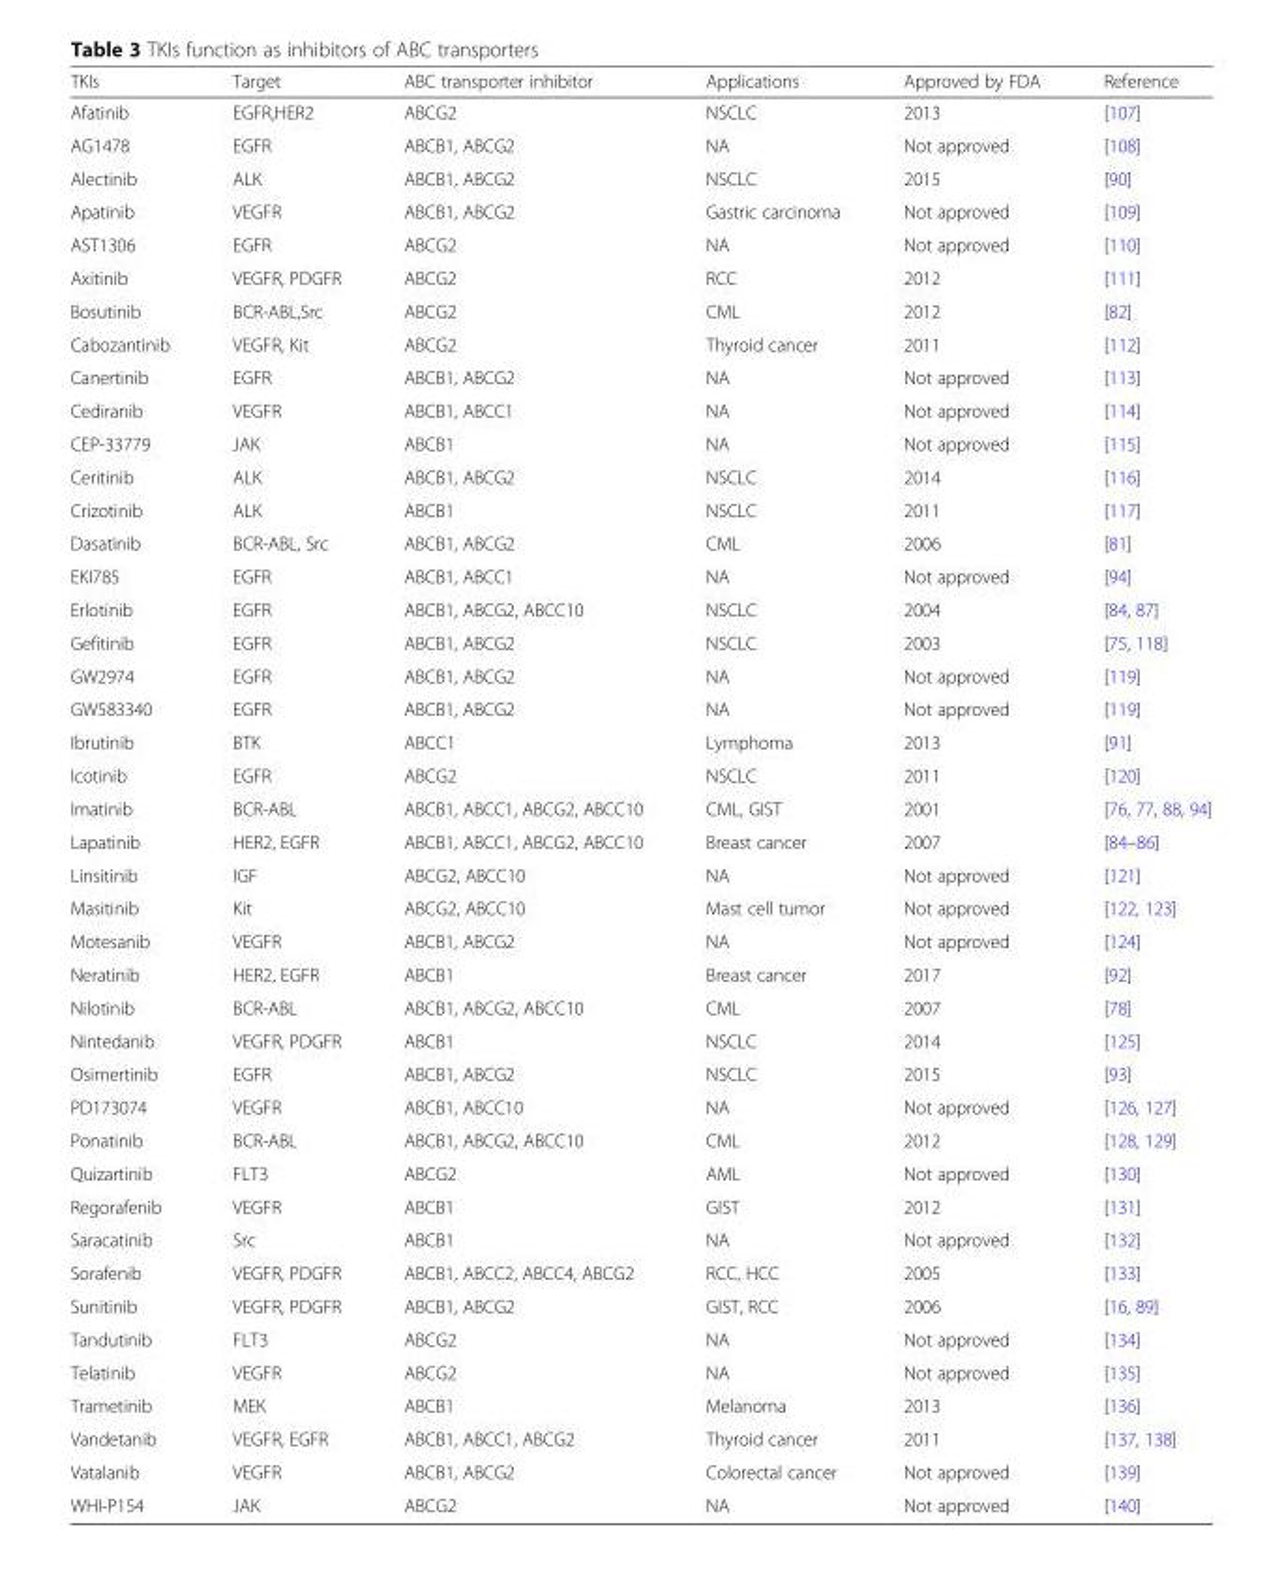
<table><thead><tr><td>TKIs</td><td>Target</td><td>ABC transporter inhibitor</td><td>Applications</td><td>Approved by FDA</td><td>Reference</td></tr></thead><tbody><tr><td>Afatinib</td><td>EGFR,HER2</td><td>ABCG2</td><td>NSCLC</td><td>2013</td><td>[107]</td></tr><tr><td>AG1478</td><td>EGFR</td><td>ABCB1, ABCG2</td><td>NA</td><td>Not approved</td><td>[108]</td></tr><tr><td>Alectinib</td><td>ALK</td><td>ABCB1, ABCG2</td><td>NSCLC</td><td>2015</td><td>[90]</td></tr><tr><td>Apatinib</td><td>VEGFR</td><td>ABCB1, ABCG2</td><td>Gastric carcinoma</td><td>Not approved</td><td>[109]</td></tr><tr><td>AST1306</td><td>EGFR</td><td>ABCG2</td><td>NA</td><td>Not approved</td><td>[110]</td></tr><tr><td>Axitinib</td><td>VEGFR, PDGFR</td><td>ABCG2</td><td>RCC</td><td>2012</td><td>[111]</td></tr><tr><td>Bosutinib</td><td>BCR-ABL,Src</td><td>ABCG2</td><td>CML</td><td>2012</td><td>[82]</td></tr><tr><td>Cabozantinib</td><td>VEGFR, Kit</td><td>ABCG2</td><td>Thyroid cancer</td><td>2011</td><td>[112]</td></tr><tr><td>Canertinib</td><td>EGFR</td><td>ABCB1, ABCG2</td><td>NA</td><td>Not approved</td><td>[113]</td></tr><tr><td>Cediranib</td><td>VEGFR</td><td>ABCB1, ABCC1</td><td>NA</td><td>Not approved</td><td>[114]</td></tr><tr><td>CEP-33779</td><td>JAK</td><td>ABCB1</td><td>NA</td><td>Not approved</td><td>[115]</td></tr><tr><td>Ceritinib</td><td>ALK</td><td>ABCB1, ABCG2</td><td>NSCLC</td><td>2014</td><td>[116]</td></tr><tr><td>Crizotinib</td><td>ALK</td><td>ABCB1</td><td>NSCLC</td><td>2011</td><td>[117]</td></tr><tr><td>Dasatinib</td><td>BCR-ABL, Src</td><td>ABCB1, ABCG2</td><td>CML</td><td>2006</td><td>[81]</td></tr><tr><td>EKI785</td><td>EGFR</td><td>ABCB1, ABCC1</td><td>NA</td><td>Not approved</td><td>[94]</td></tr><tr><td>Erlotinib</td><td>EGFR</td><td>ABCB1, ABCG2, ABCC10</td><td>NSCLC</td><td>2004</td><td>[84, 87]</td></tr><tr><td>Gefitinib</td><td>EGFR</td><td>ABCB1, ABCG2</td><td>NSCLC</td><td>2003</td><td>[75, 118]</td></tr><tr><td>GW2974</td><td>EGFR</td><td>ABCB1, ABCG2</td><td>NA</td><td>Not approved</td><td>[119]</td></tr><tr><td>GW583340</td><td>EGFR</td><td>ABCB1, ABCG2</td><td>NA</td><td>Not approved</td><td>[119]</td></tr><tr><td>Ibrutinib</td><td>BTK</td><td>ABCC1</td><td>Lymphoma</td><td>2013</td><td>[91]</td></tr><tr><td>Icotinib</td><td>EGFR</td><td>ABCG2</td><td>NSCLC</td><td>2011</td><td>[120]</td></tr><tr><td>Imatinib</td><td>BCR-ABL</td><td>ABCB1, ABCC1, ABCG2, ABCC10</td><td>CML, GIST</td><td>2001</td><td>[76, 77, 88, 94]</td></tr><tr><td>Lapatinib</td><td>HER2, EGFR</td><td>ABCB1, ABCC1, ABCG2, ABCC10</td><td>Breast cancer</td><td>2007</td><td>[84–86]</td></tr><tr><td>Linsitinib</td><td>IGF</td><td>ABCG2, ABCC10</td><td>NA</td><td>Not approved</td><td>[121]</td></tr><tr><td>Masitinib</td><td>Kit</td><td>ABCG2, ABCC10</td><td>Mast cell tumor</td><td>Not approved</td><td>[122, 123]</td></tr><tr><td>Motesanib</td><td>VEGFR</td><td>ABCB1, ABCG2</td><td>NA</td><td>Not approved</td><td>[124]</td></tr><tr><td>Neratinib</td><td>HER2, EGFR</td><td>ABCB1</td><td>Breast cancer</td><td>2017</td><td>[92]</td></tr><tr><td>Nilotinib</td><td>BCR-ABL</td><td>ABCB1, ABCG2, ABCC10</td><td>CML</td><td>2007</td><td>[78]</td></tr><tr><td>Nintedanib</td><td>VEGFR, PDGFR</td><td>ABCB1</td><td>NSCLC</td><td>2014</td><td>[125]</td></tr><tr><td>Osimertinib</td><td>EGFR</td><td>ABCB1, ABCG2</td><td>NSCLC</td><td>2015</td><td>[93]</td></tr><tr><td>PD173074</td><td>VEGFR</td><td>ABCB1, ABCC10</td><td>NA</td><td>Not approved</td><td>[126, 127]</td></tr><tr><td>Ponatinib</td><td>BCR-ABL</td><td>ABCB1, ABCG2, ABCC10</td><td>CML</td><td>2012</td><td>[128, 129]</td></tr><tr><td>Quizartinib</td><td>FLT3</td><td>ABCG2</td><td>AML</td><td>Not approved</td><td>[130]</td></tr><tr><td>Regorafenib</td><td>VEGFR</td><td>ABCB1</td><td>GIST</td><td>2012</td><td>[131]</td></tr><tr><td>Saracatinib</td><td>Src</td><td>ABCB1</td><td>NA</td><td>Not approved</td><td>[132]</td></tr><tr><td>Sorafenib</td><td>VEGFR, PDGFR</td><td>ABCB1, ABCC2, ABCC4, ABCG2</td><td>RCC, HCC</td><td>2005</td><td>[133]</td></tr><tr><td>Sunitinib</td><td>VEGFR, PDGFR</td><td>ABCB1, ABCG2</td><td>GIST, RCC</td><td>2006</td><td>[16, 89]</td></tr><tr><td>Tandutinib</td><td>FLT3</td><td>ABCG2</td><td>NA</td><td>Not approved</td><td>[134]</td></tr><tr><td>Telatinib</td><td>VEGFR</td><td>ABCG2</td><td>NA</td><td>Not approved</td><td>[135]</td></tr><tr><td>Trametinib</td><td>MEK</td><td>ABCB1</td><td>Melanoma</td><td>2013</td><td>[136]</td></tr><tr><td>Vandetanib</td><td>VEGFR, EGFR</td><td>ABCB1, ABCC1, ABCG2</td><td>Thyroid cancer</td><td>2011</td><td>[137, 138]</td></tr><tr><td>Vatalanib</td><td>VEGFR</td><td>ABCB1, ABCG2</td><td>Colorectal cancer</td><td>Not approved</td><td>[139]</td></tr><tr><td>WHI-P154</td><td>JAK</td><td>ABCG2</td><td>NA</td><td>Not approved</td><td>[140]</td></tr></tbody></table>